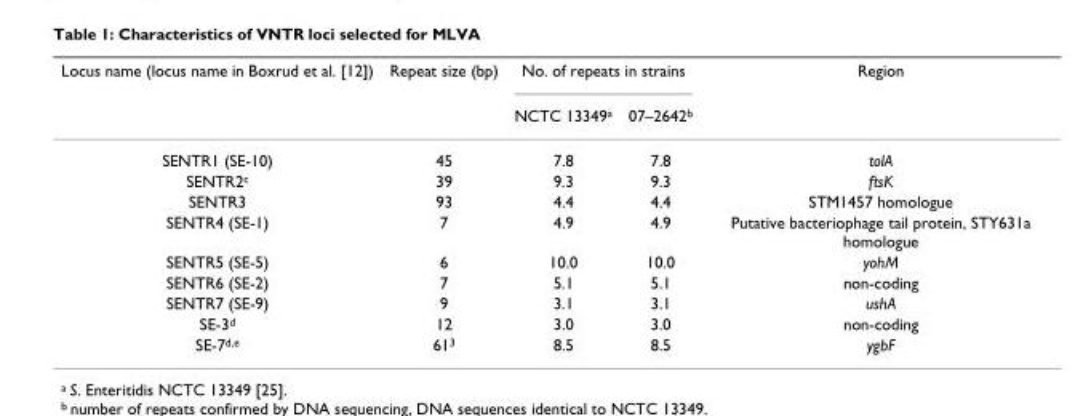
<table><thead><tr><td rowspan="2">Locus name (locus name in Boxrud et al. [12])</td><td rowspan="2">Repeat size (bp)</td><td colspan="2">No. of repeats in strains</td><td rowspan="2">Region</td></tr><tr><td>NCTC 13349<sup>a</sup></td><td>07–2642<sup>b</sup></td></tr></thead><tbody><tr><td>SENTR1 (SE-10)</td><td>45</td><td>7.8</td><td>7.8</td><td>tolA</td></tr><tr><td>SENTR2<sup>c</sup></td><td>39</td><td>9.3</td><td>9.3</td><td>ftsK</td></tr><tr><td>SENTR3</td><td>93</td><td>4.4</td><td>4.4</td><td>STM1457 homologue</td></tr><tr><td>SENTR4 (SE-1)</td><td>7</td><td>4.9</td><td>4.9</td><td>Putative bacteriophage tail protein, STY631a homologue</td></tr><tr><td>SENTR5 (SE-5)</td><td>6</td><td>10.0</td><td>10.0</td><td>yohM</td></tr><tr><td>SENTR6 (SE-2)</td><td>7</td><td>5.1</td><td>5.1</td><td>non-coding</td></tr><tr><td>SENTR7 (SE-9)</td><td>9</td><td>3.1</td><td>3.1</td><td>ushA</td></tr><tr><td>SE-3<sup>d</sup></td><td>12</td><td>3.0</td><td>3.0</td><td>non-coding</td></tr><tr><td>SE-7<sup>d,e</sup></td><td>61<sup>3</sup></td><td>8.5</td><td>8.5</td><td>ygbF</td></tr></tbody></table>